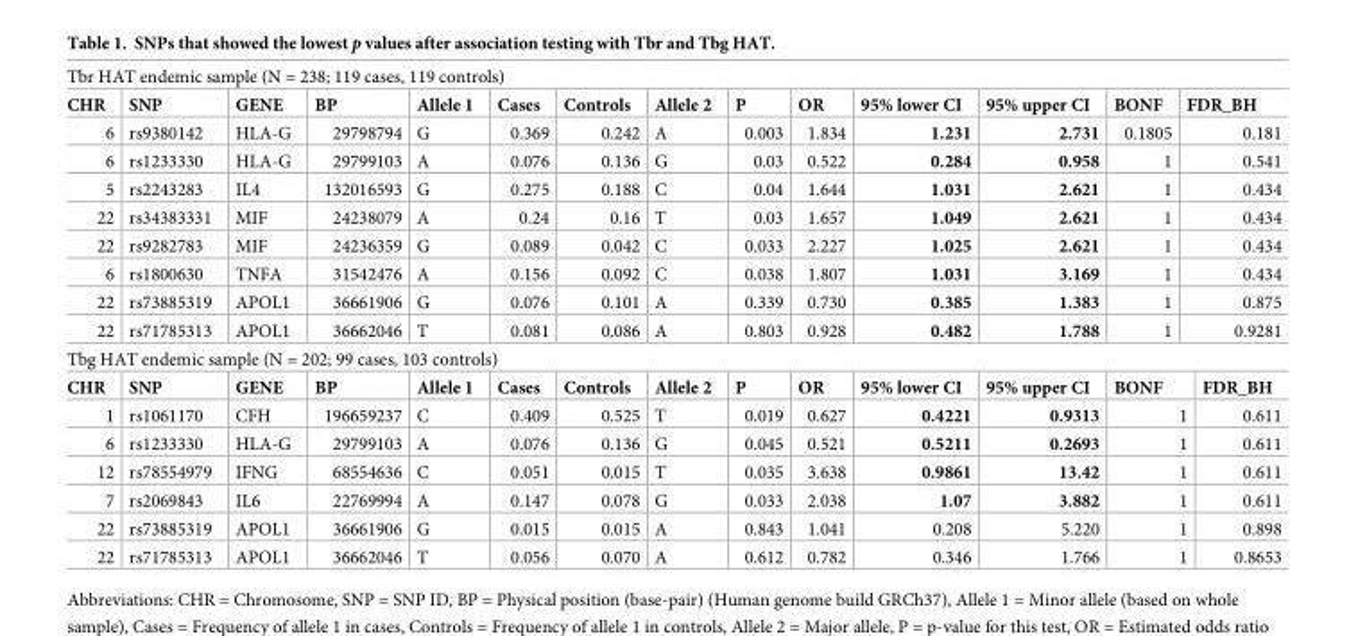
<table><tbody><tr><td colspan="15">Tbr HAT endemic sample (N = 238; 119 cases, 119 controls)</td></tr><tr><td>CHR</td><td>SNP</td><td>GENE</td><td>BP</td><td>Allele 1</td><td>Cases</td><td>Controls</td><td>Allele 2</td><td>P</td><td>OR</td><td>95% lower CI</td><td>95% upper CI</td><td>BONF</td><td colspan="2">FDR_BH</td></tr><tr><td>6</td><td>rs9380142</td><td>HLA-G</td><td>29798794</td><td>G</td><td>0.369</td><td>0.242</td><td>A</td><td>0.003</td><td>1.834</td><td>1.231</td><td>2.731</td><td>0.1805</td><td colspan="2">0.181</td></tr><tr><td>6</td><td>rs1233330</td><td>HLA-G</td><td>29799103</td><td>A</td><td>0.076</td><td>0.136</td><td>G</td><td>0.03</td><td>0.522</td><td>0.284</td><td>0.958</td><td>1</td><td colspan="2">0.541</td></tr><tr><td>5</td><td>rs2243283</td><td>IL4</td><td>132016593</td><td>G</td><td>0.275</td><td>0.188</td><td>C</td><td>0.04</td><td>1.644</td><td>1.031</td><td>2.621</td><td>1</td><td colspan="2">0.434</td></tr><tr><td>22</td><td>rs34383331</td><td>MIF</td><td>24238079</td><td>A</td><td>0.24</td><td>0.16</td><td>T</td><td>0.03</td><td>1.657</td><td>1.049</td><td>2.621</td><td>1</td><td colspan="2">0.434</td></tr><tr><td>22</td><td>rs9282783</td><td>MIF</td><td>24236359</td><td>G</td><td>0.089</td><td>0.042</td><td>C</td><td>0.033</td><td>2.227</td><td>1.025</td><td>2.621</td><td>1</td><td colspan="2">0.434</td></tr><tr><td>6</td><td>rs1800630</td><td>TNFA</td><td>31542476</td><td>A</td><td>0.156</td><td>0.092</td><td>C</td><td>0.038</td><td>1.807</td><td>1.031</td><td>3.169</td><td>1</td><td colspan="2">0.434</td></tr><tr><td>22</td><td>rs73885319</td><td>APOL1</td><td>36661906</td><td>G</td><td>0.076</td><td>0.101</td><td>A</td><td>0.339</td><td>0.730</td><td>0.385</td><td>1.383</td><td>1</td><td colspan="2">0.875</td></tr><tr><td>22</td><td>rs71785313</td><td>APOL1</td><td>36662046</td><td>T</td><td>0.081</td><td>0.086</td><td>A</td><td>0.803</td><td>0.928</td><td>0.482</td><td>1.788</td><td>1</td><td colspan="2">0.9281</td></tr><tr><td colspan="15">Tbg HAT endemic sample (N = 202; 99 cases, 103 controls)</td></tr><tr><td>CHR</td><td>SNP</td><td>GENE</td><td>BP</td><td>Allele 1</td><td>Cases</td><td>Controls</td><td>Allele 2</td><td>P</td><td>OR</td><td>95% lower CI</td><td>95% upper CI</td><td colspan="2">BONF</td><td>FDR_BH</td></tr><tr><td>1</td><td>rs1061170</td><td>CFH</td><td>196659237</td><td>C</td><td>0.409</td><td>0.525</td><td>T</td><td>0.019</td><td>0.627</td><td>0.4221</td><td>0.9313</td><td colspan="2">1</td><td>0.611</td></tr><tr><td>6</td><td>rs1233330</td><td>HLA-G</td><td>29799103</td><td>A</td><td>0.076</td><td>0.136</td><td>G</td><td>0.045</td><td>0.521</td><td>0.5211</td><td>0.2693</td><td colspan="2">1</td><td>0.611</td></tr><tr><td>12</td><td>rs78554979</td><td>IFNG</td><td>68554636</td><td>C</td><td>0.051</td><td>0.015</td><td>T</td><td>0.035</td><td>3.638</td><td>0.9861</td><td>13.42</td><td colspan="2">1</td><td>0.611</td></tr><tr><td>7</td><td>rs2069843</td><td>IL6</td><td>22769994</td><td>A</td><td>0.147</td><td>0.078</td><td>G</td><td>0.033</td><td>2.038</td><td>1.07</td><td>3.882</td><td colspan="2">1</td><td>0.611</td></tr><tr><td>22</td><td>rs73885319</td><td>APOL1</td><td>36661906</td><td>G</td><td>0.015</td><td>0.015</td><td>A</td><td>0.843</td><td>1.041</td><td>0.208</td><td>5.220</td><td colspan="2">1</td><td>0.898</td></tr><tr><td>22</td><td>rs71785313</td><td>APOL1</td><td>36662046</td><td>T</td><td>0.056</td><td>0.070</td><td>A</td><td>0.612</td><td>0.782</td><td>0.346</td><td>1.766</td><td colspan="2">1</td><td>0.8653</td></tr></tbody></table>